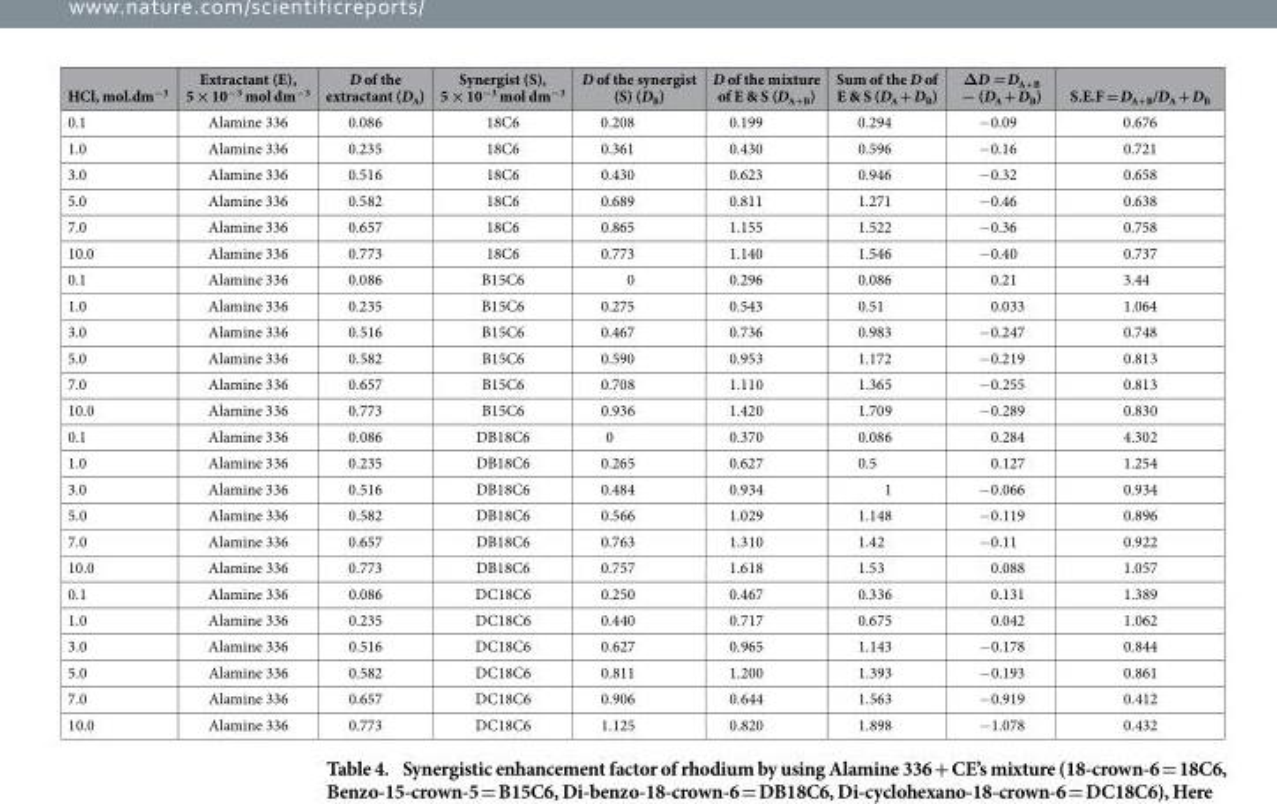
<table><thead><tr><td>HCl, mol.dm<sup>−3</sup></td><td>Extractant (E), 5 × 10<sup>−3</sup> mol dm<sup>−3</sup></td><td>D of the extractant (D<sub>A</sub>)</td><td>Synergist (S), 5 × 10<sup>−3</sup> mol dm<sup>−3</sup></td><td>D of the synergist (S) (D<sub>B</sub>)</td><td>D of the mixture of E &amp; S (D<sub>A+B</sub>)</td><td>Sum of the D of E &amp; S (D<sub>A</sub> + D<sub>B</sub>)</td><td>ΔD = D<sub>A+B</sub> − (D<sub>A</sub> + D<sub>B</sub>)</td><td>S.E.F = D<sub>A+B</sub>/D<sub>A</sub> + D<sub>B</sub></td></tr></thead><tbody><tr><td>0.1</td><td>Alamine 336</td><td>0.086</td><td>18C6</td><td>0.208</td><td>0.199</td><td>0.294</td><td>− 0.09</td><td>0.676</td></tr><tr><td>1.0</td><td>Alamine 336</td><td>0.235</td><td>18C6</td><td>0.361</td><td>0.430</td><td>0.596</td><td>− 0.16</td><td>0.721</td></tr><tr><td>3.0</td><td>Alamine 336</td><td>0.516</td><td>18C6</td><td>0.430</td><td>0.623</td><td>0.946</td><td>− 0.32</td><td>0.658</td></tr><tr><td>5.0</td><td>Alamine 336</td><td>0.582</td><td>18C6</td><td>0.689</td><td>0.811</td><td>1.271</td><td>− 0.46</td><td>0.638</td></tr><tr><td>7.0</td><td>Alamine 336</td><td>0.657</td><td>18C6</td><td>0.865</td><td>1.155</td><td>1.522</td><td>− 0.36</td><td>0.758</td></tr><tr><td>10.0</td><td>Alamine 336</td><td>0.773</td><td>18C6</td><td>0.773</td><td>1.140</td><td>1.546</td><td>− 0.40</td><td>0.737</td></tr><tr><td>0.1</td><td>Alamine 336</td><td>0.086</td><td>B15C6</td><td>0</td><td>0.296</td><td>0.086</td><td>0.21</td><td>3.44</td></tr><tr><td>1.0</td><td>Alamine 336</td><td>0.235</td><td>B15C6</td><td>0.275</td><td>0.543</td><td>0.51</td><td>0.033</td><td>1.064</td></tr><tr><td>3.0</td><td>Alamine 336</td><td>0.516</td><td>B15C6</td><td>0.467</td><td>0.736</td><td>0.983</td><td>− 0.247</td><td>0.748</td></tr><tr><td>5.0</td><td>Alamine 336</td><td>0.582</td><td>B15C6</td><td>0.590</td><td>0.953</td><td>1.172</td><td>− 0.219</td><td>0.813</td></tr><tr><td>7.0</td><td>Alamine 336</td><td>0.657</td><td>B15C6</td><td>0.708</td><td>1.110</td><td>1.365</td><td>− 0.255</td><td>0.813</td></tr><tr><td>10.0</td><td>Alamine 336</td><td>0.773</td><td>B15C6</td><td>0.936</td><td>1.420</td><td>1.709</td><td>− 0.289</td><td>0.830</td></tr><tr><td>0.1</td><td>Alamine 336</td><td>0.086</td><td>DB18C6</td><td>0</td><td>0.370</td><td>0.086</td><td>0.284</td><td>4.302</td></tr><tr><td>1.0</td><td>Alamine 336</td><td>0.235</td><td>DB18C6</td><td>0.265</td><td>0.627</td><td>0.5</td><td>0.127</td><td>1.254</td></tr><tr><td>3.0</td><td>Alamine 336</td><td>0.516</td><td>DB18C6</td><td>0.484</td><td>0.934</td><td>1</td><td>− 0.066</td><td>0.934</td></tr><tr><td>5.0</td><td>Alamine 336</td><td>0.582</td><td>DB18C6</td><td>0.566</td><td>1.029</td><td>1.148</td><td>− 0.119</td><td>0.896</td></tr><tr><td>7.0</td><td>Alamine 336</td><td>0.657</td><td>DB18C6</td><td>0.763</td><td>1.310</td><td>1.42</td><td>− 0.11</td><td>0.922</td></tr><tr><td>10.0</td><td>Alamine 336</td><td>0.773</td><td>DB18C6</td><td>0.757</td><td>1.618</td><td>1.53</td><td>0.088</td><td>1.057</td></tr><tr><td>0.1</td><td>Alamine 336</td><td>0.086</td><td>DC18C6</td><td>0.250</td><td>0.467</td><td>0.336</td><td>0.131</td><td>1.389</td></tr><tr><td>1.0</td><td>Alamine 336</td><td>0.235</td><td>DC18C6</td><td>0.440</td><td>0.717</td><td>0.675</td><td>0.042</td><td>1.062</td></tr><tr><td>3.0</td><td>Alamine 336</td><td>0.516</td><td>DC18C6</td><td>0.627</td><td>0.965</td><td>1.143</td><td>− 0.178</td><td>0.844</td></tr><tr><td>5.0</td><td>Alamine 336</td><td>0.582</td><td>DC18C6</td><td>0.811</td><td>1.200</td><td>1.393</td><td>− 0.193</td><td>0.861</td></tr><tr><td>7.0</td><td>Alamine 336</td><td>0.657</td><td>DC18C6</td><td>0.906</td><td>0.644</td><td>1.563</td><td>− 0.919</td><td>0.412</td></tr><tr><td>10.0</td><td>Alamine 336</td><td>0.773</td><td>DC18C6</td><td>1.125</td><td>0.820</td><td>1.898</td><td>− 1.078</td><td>0.432</td></tr></tbody></table>